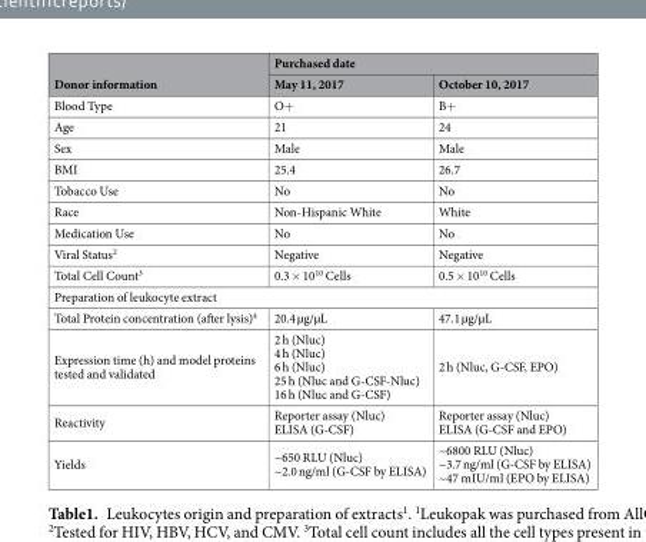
<table><thead><tr><td rowspan="2">Donor information</td><td colspan="2">Purchased date</td></tr><tr><td>May 11, 2017</td><td>October 10, 2017</td></tr></thead><tbody><tr><td>Blood Type</td><td>O+</td><td>B+</td></tr><tr><td>Age</td><td>21</td><td>24</td></tr><tr><td>Sex</td><td>Male</td><td>Male</td></tr><tr><td>BMI</td><td>25.4</td><td>26.7</td></tr><tr><td>Tobacco Use</td><td>No</td><td>No</td></tr><tr><td>Race</td><td>Non-Hispanic White</td><td>White</td></tr><tr><td>Medication Use</td><td>No</td><td>No</td></tr><tr><td>Viral Status<sup>2</sup></td><td>Negative</td><td>Negative</td></tr><tr><td>Total Cell Count<sup>3</sup></td><td>0.3 × 10<sup>10</sup> Cells</td><td>0.5 × 10<sup>10</sup> Cells</td></tr><tr><td colspan="3">Preparation of leukocyte extract</td></tr><tr><td>Total Protein concentration (after lysis)<sup>4</sup></td><td>20.4 µg/µL</td><td>47.1 µg/µL</td></tr><tr><td>Expression time (h) and model proteins tested and validated</td><td>2 h (Nluc) 4 h (Nluc) 6 h (Nluc) 25 h (Nluc and G-CSF-Nluc) 16 h (Nluc and G-CSF)</td><td>2 h (Nluc, G-CSF, EPO)</td></tr><tr><td>Reactivity</td><td>Reporter assay (Nluc) ELISA (G-CSF)</td><td>Reporter assay (Nluc) ELISA (G-CSF and EPO)</td></tr><tr><td>Yields</td><td>~650 RLU (Nluc) ~2.0 ng/ml (G-CSF by ELISA)</td><td>~6800 RLU (Nluc) ~3.7 ng/ml (G-CSF by ELISA) ~47 mIU/ml (EPO by ELISA)</td></tr></tbody></table>